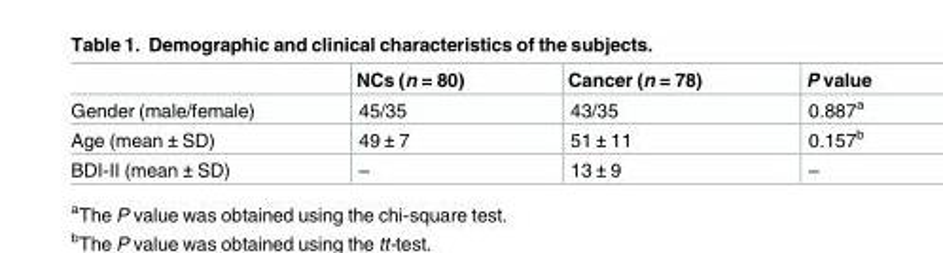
<table><thead><tr><td></td><td>NCs (n = 80)</td><td>Cancer (n = 78)</td><td>P value</td></tr></thead><tbody><tr><td>Gender (male/female)</td><td>45/35</td><td>43/35</td><td>0.887<sup>a</sup></td></tr><tr><td>Age (mean ± SD)</td><td>49 ± 7</td><td>51 ± 11</td><td>0.157<sup>b</sup></td></tr><tr><td>BDI-II (mean ± SD)</td><td>–</td><td>13 ± 9</td><td>–</td></tr></tbody></table>